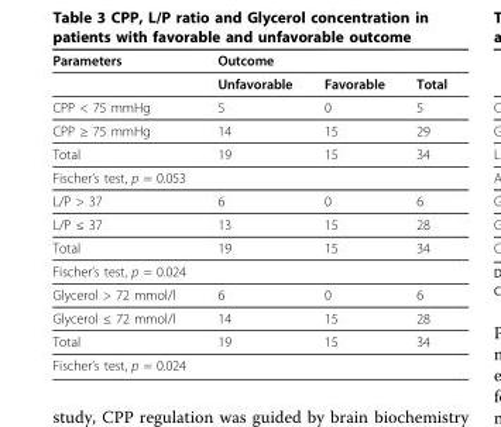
<table><thead><tr><td rowspan="2">Parameters</td><td colspan="2">Outcome</td><td rowspan="2">Total</td></tr><tr><td>Unfavorable</td><td>Favorable</td></tr></thead><tbody><tr><td>CPP &lt; 75 mmHg</td><td>5</td><td>0</td><td>5</td></tr><tr><td>CPP ≥ 75 mmHg</td><td>14</td><td>15</td><td>29</td></tr><tr><td>Total</td><td>19</td><td>15</td><td>34</td></tr><tr><td colspan="4">Fischer’s test, p = 0.053</td></tr><tr><td>L/P &gt; 37</td><td>6</td><td>0</td><td>6</td></tr><tr><td>L/P ≤ 37</td><td>13</td><td>15</td><td>28</td></tr><tr><td>Total</td><td>19</td><td>15</td><td>34</td></tr><tr><td colspan="4">Fischer’s test, p = 0.024</td></tr><tr><td>Glycerol &gt; 72 mmol/l</td><td>6</td><td>0</td><td>6</td></tr><tr><td>Glycerol ≤ 72 mmol/l</td><td>14</td><td>15</td><td>28</td></tr><tr><td>Total</td><td>19</td><td>15</td><td>34</td></tr><tr><td>Fischer’s test, p = 0.024</td><td></td><td></td><td></td></tr></tbody></table>